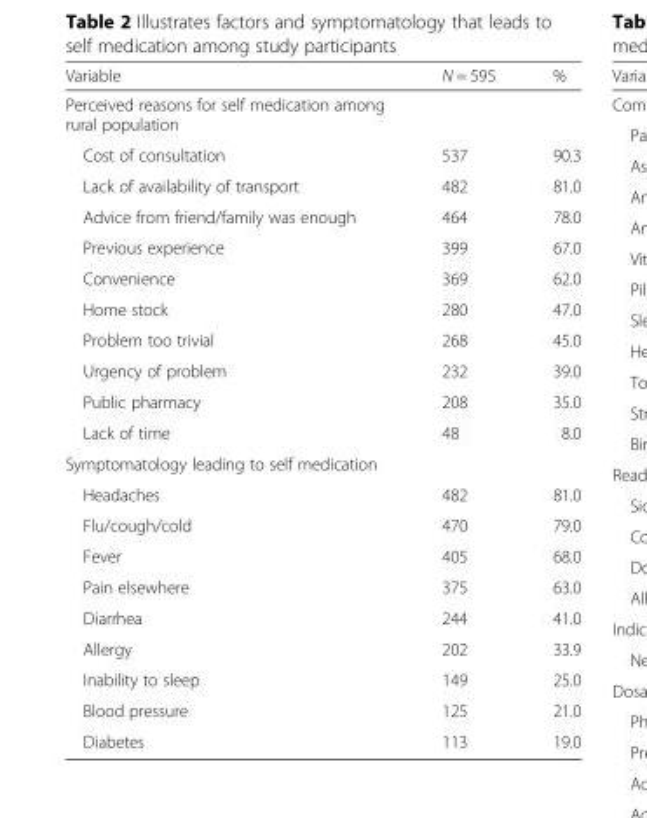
<table><thead><tr><td>Variable</td><td>N = 595</td><td>%</td></tr></thead><tbody><tr><td colspan="3">Perceived reasons for self medication among rural population</td></tr><tr><td>Cost of consultation</td><td>537</td><td>90.3</td></tr><tr><td>Lack of availability of transport</td><td>482</td><td>81.0</td></tr><tr><td>Advice from friend/family was enough</td><td>464</td><td>78.0</td></tr><tr><td>Previous experience</td><td>399</td><td>67.0</td></tr><tr><td>Convenience</td><td>369</td><td>62.0</td></tr><tr><td>Home stock</td><td>280</td><td>47.0</td></tr><tr><td>Problem too trivial</td><td>268</td><td>45.0</td></tr><tr><td>Urgency of problem</td><td>232</td><td>39.0</td></tr><tr><td>Public pharmacy</td><td>208</td><td>35.0</td></tr><tr><td>Lack of time</td><td>48</td><td>8.0</td></tr><tr><td colspan="3">Symptomatology leading to self medication</td></tr><tr><td>Headaches</td><td>482</td><td>81.0</td></tr><tr><td>Flu/cough/cold</td><td>470</td><td>79.0</td></tr><tr><td>Fever</td><td>405</td><td>68.0</td></tr><tr><td>Pain elsewhere</td><td>375</td><td>63.0</td></tr><tr><td>Diarrhea</td><td>244</td><td>41.0</td></tr><tr><td>Allergy</td><td>202</td><td>33.9</td></tr><tr><td>Inability to sleep</td><td>149</td><td>25.0</td></tr><tr><td>Blood pressure</td><td>125</td><td>21.0</td></tr><tr><td>Diabetes</td><td>113</td><td>19.0</td></tr></tbody></table>